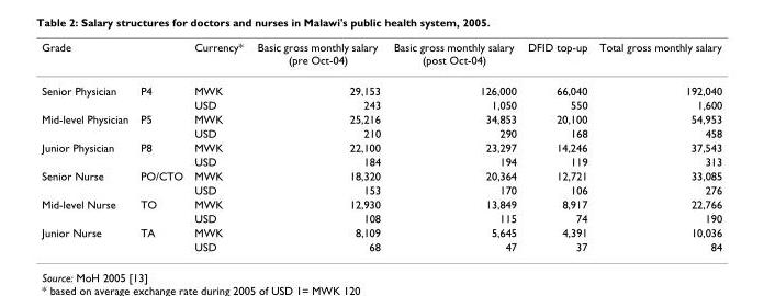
<table><thead><tr><td>Grade</td><td></td><td>Currency*</td><td>Basic gross monthly salary (pre Oct-04)</td><td>Basic gross monthly salary (post Oct-04)</td><td>DFID top-up</td><td>Total gross monthly salary</td></tr></thead><tbody><tr><td rowspan="2">Senior Physician</td><td>P4</td><td>MWK</td><td>29,153</td><td>126,000</td><td>66,040</td><td>192,040</td></tr><tr><td></td><td>USD</td><td>243</td><td>1,050</td><td>550</td><td>1,600</td></tr><tr><td rowspan="2">Mid-level Physician</td><td>P5</td><td>MWK</td><td>25,216</td><td>34,853</td><td>20,100</td><td>54,953</td></tr><tr><td></td><td>USD</td><td>210</td><td>290</td><td>168</td><td>458</td></tr><tr><td rowspan="2">Junior Physician</td><td>P8</td><td>MWK</td><td>22,100</td><td>23,297</td><td>14,246</td><td>37,543</td></tr><tr><td></td><td>USD</td><td>184</td><td>194</td><td>119</td><td>313</td></tr><tr><td rowspan="2">Senior Nurse</td><td>PO/CTO</td><td>MWK</td><td>18,320</td><td>20,364</td><td>12,721</td><td>33,085</td></tr><tr><td></td><td>USD</td><td>153</td><td>170</td><td>106</td><td>276</td></tr><tr><td rowspan="2">Mid-level Nurse</td><td>TO</td><td>MWK</td><td>12,930</td><td>13,849</td><td>8,917</td><td>22,766</td></tr><tr><td></td><td>USD</td><td>108</td><td>115</td><td>74</td><td>190</td></tr><tr><td rowspan="2">Junior Nurse</td><td>TA</td><td>MWK</td><td>8,109</td><td>5,645</td><td>4,391</td><td>10,036</td></tr><tr><td></td><td>USD</td><td>68</td><td>47</td><td>37</td><td>84</td></tr></tbody></table>